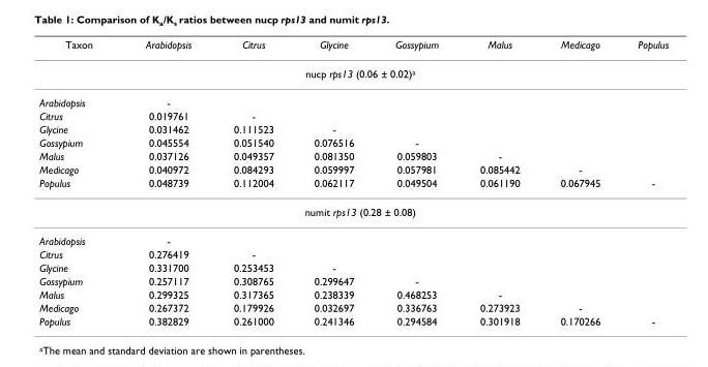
<table><thead><tr><td>Taxon</td><td>Arabidopsis</td><td>Citrus</td><td>Glycine</td><td>Gossypium</td><td>Malus</td><td>Medicago</td><td>Populus</td></tr></thead><tbody><tr><td colspan="8">nucp rps13 (0.06 ± 0.02)<sup>a</sup></td></tr><tr><td>Arabidopsis</td><td>-</td><td></td><td></td><td></td><td></td><td></td><td></td></tr><tr><td>Citrus</td><td>0.019761</td><td>-</td><td></td><td></td><td></td><td></td><td></td></tr><tr><td>Glycine</td><td>0.031462</td><td>0.111523</td><td>-</td><td></td><td></td><td></td><td></td></tr><tr><td>Gossypium</td><td>0.045554</td><td>0.051540</td><td>0.076516</td><td>-</td><td></td><td></td><td></td></tr><tr><td>Malus</td><td>0.037126</td><td>0.049357</td><td>0.081350</td><td>0.059803</td><td>-</td><td></td><td></td></tr><tr><td>Medicago</td><td>0.040972</td><td>0.084293</td><td>0.059997</td><td>0.057981</td><td>0.085442</td><td>-</td><td></td></tr><tr><td>Populus</td><td>0.048739</td><td>0.112004</td><td>0.062117</td><td>0.049504</td><td>0.061190</td><td>0.067945</td><td>-</td></tr><tr><td colspan="8">numit rps13 (0.28 ± 0.08)</td></tr><tr><td>Arabidopsis</td><td>-</td><td></td><td></td><td></td><td></td><td></td><td></td></tr><tr><td>Citrus</td><td>0.276419</td><td>-</td><td></td><td></td><td></td><td></td><td></td></tr><tr><td>Glycine</td><td>0.331700</td><td>0.253453</td><td>-</td><td></td><td></td><td></td><td></td></tr><tr><td>Gossypium</td><td>0.257117</td><td>0.308765</td><td>0.299647</td><td>-</td><td></td><td></td><td></td></tr><tr><td>Malus</td><td>0.299325</td><td>0.317365</td><td>0.238339</td><td>0.468253</td><td>-</td><td></td><td></td></tr><tr><td>Medicago</td><td>0.267372</td><td>0.179926</td><td>0.032697</td><td>0.336763</td><td>0.273923</td><td>-</td><td></td></tr><tr><td>Populus</td><td>0.382829</td><td>0.261000</td><td>0.241346</td><td>0.294584</td><td>0.301918</td><td>0.170266</td><td>-</td></tr></tbody></table>